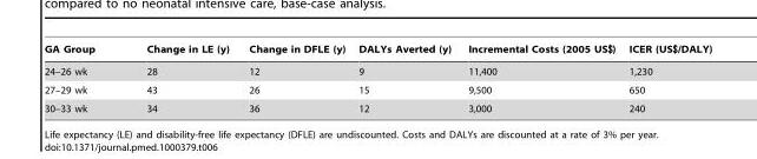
<table><thead><tr><td>GA Group</td><td>Change in LE (y)</td><td>Change in DFLE (y)</td><td>DALYs Averted (y)</td><td>Incremental Costs (2005 US$)</td><td>ICER (US$/DALY)</td></tr></thead><tbody><tr><td>24–26 wk</td><td>28</td><td>12</td><td>9</td><td>11,400</td><td>1,230</td></tr><tr><td>27–29 wk</td><td>43</td><td>26</td><td>15</td><td>9,500</td><td>650</td></tr><tr><td>30–33 wk</td><td>34</td><td>36</td><td>12</td><td>3,000</td><td>240</td></tr></tbody></table>